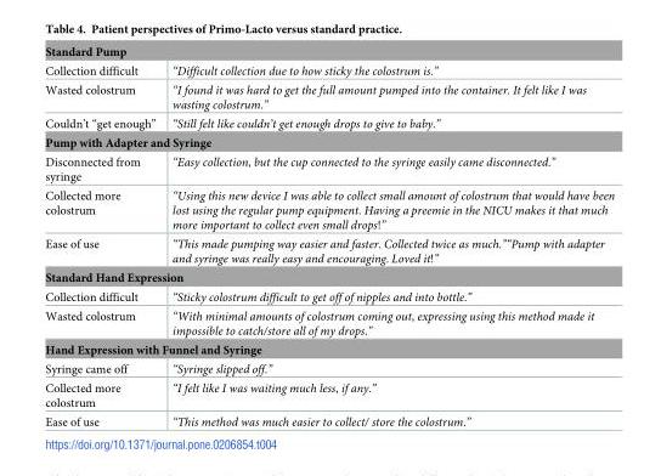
<table><tbody><tr><td colspan="2">Standard Pump</td></tr><tr><td>Collection difficult</td><td>“Difficult collection due to how sticky the colostrum is.”</td></tr><tr><td>Wasted colostrum</td><td>“I found it was hard to get the full amount pumped into the container. It felt like I was wasting colostrum.”</td></tr><tr><td>Couldn’t “get enough”</td><td>“Still felt like couldn’t get enough drops to give to baby.”</td></tr><tr><td colspan="2">Pump with Adapter and Syringe</td></tr><tr><td>Disconnected from syringe</td><td>“Easy collection, but the cup connected to the syringe easily came disconnected.”</td></tr><tr><td>Collected more colostrum</td><td>“Using this new device I was able to collect small amount of colostrum that would have been lost using the regular pump equipment. Having a preemie in the NICU makes it that much more important to collect even small drops!”</td></tr><tr><td>Ease of use</td><td>“This made pumping way easier and faster. Collected twice as much.”“Pump with adapter and syringe was really easy and encouraging. Loved it!”</td></tr><tr><td colspan="2">Standard Hand Expression</td></tr><tr><td>Collection difficult</td><td>“Sticky colostrum difficult to get off of nipples and into bottle.”</td></tr><tr><td>Wasted colostrum</td><td>“With minimal amounts of colostrum coming out, expressing using this method made it impossible to catch/store all of my drops.”</td></tr><tr><td colspan="2">Hand Expression with Funnel and Syringe</td></tr><tr><td>Syringe came off</td><td>“Syringe slipped off.”</td></tr><tr><td>Collected more colostrum</td><td>“I felt like I was waiting much less, if any.”</td></tr><tr><td>Ease of use</td><td>“This method was much easier to collect/ store the colostrum.”</td></tr></tbody></table>